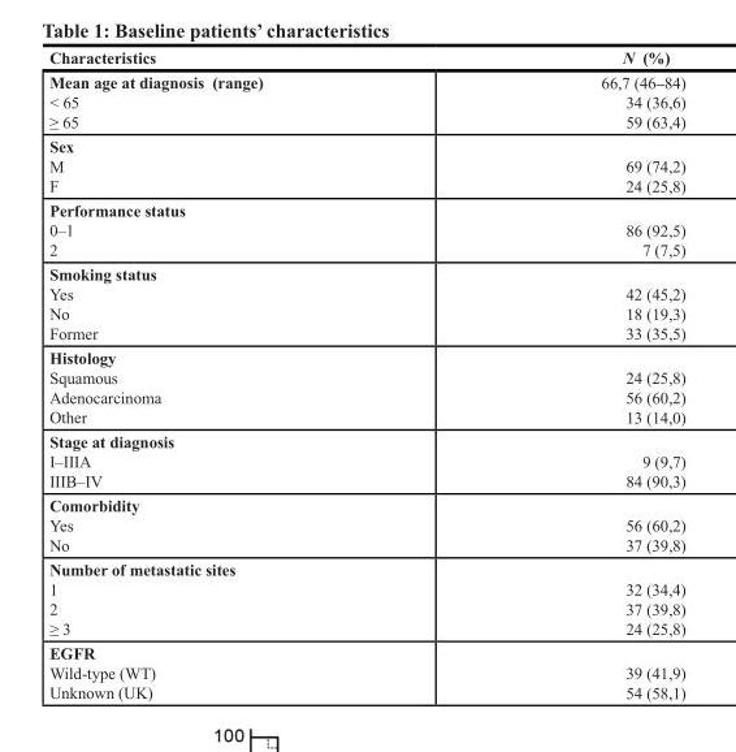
<table><thead><tr><td>Characteristics</td><td>N (%)</td></tr></thead><tbody><tr><td>Mean age at diagnosis (range)</td><td>66,7 (46–84)</td></tr><tr><td>&lt; 65</td><td>34 (36,6)</td></tr><tr><td>≥ 65</td><td>59 (63,4)</td></tr><tr><td colspan="2">Sex</td></tr><tr><td>M</td><td>69 (74,2)</td></tr><tr><td>F</td><td>24 (25,8)</td></tr><tr><td colspan="2">Performance status</td></tr><tr><td>0–1</td><td>86 (92,5)</td></tr><tr><td>2</td><td>7 (7,5)</td></tr><tr><td colspan="2">Smoking status</td></tr><tr><td>Yes</td><td>42 (45,2)</td></tr><tr><td>No</td><td>18 (19,3)</td></tr><tr><td>Former</td><td>33 (35,5)</td></tr><tr><td colspan="2">Histology</td></tr><tr><td>Squamous</td><td>24 (25,8)</td></tr><tr><td>Adenocarcinoma</td><td>56 (60,2)</td></tr><tr><td>Other</td><td>13 (14,0)</td></tr><tr><td colspan="2">Stage at diagnosis</td></tr><tr><td>I–IIIA</td><td>9 (9,7)</td></tr><tr><td>IIIB–IV</td><td>84 (90,3)</td></tr><tr><td colspan="2">Comorbidity</td></tr><tr><td>Yes</td><td>56 (60,2)</td></tr><tr><td>No</td><td>37 (39,8)</td></tr><tr><td colspan="2">Number of metastatic sites</td></tr><tr><td>1</td><td>32 (34,4)</td></tr><tr><td>2</td><td>37 (39,8)</td></tr><tr><td>≥ 3</td><td>24 (25,8)</td></tr><tr><td colspan="2">EGFR</td></tr><tr><td>Wild-type (WT)</td><td>39 (41,9)</td></tr><tr><td>Unknown (UK)</td><td>54 (58,1)</td></tr></tbody></table>